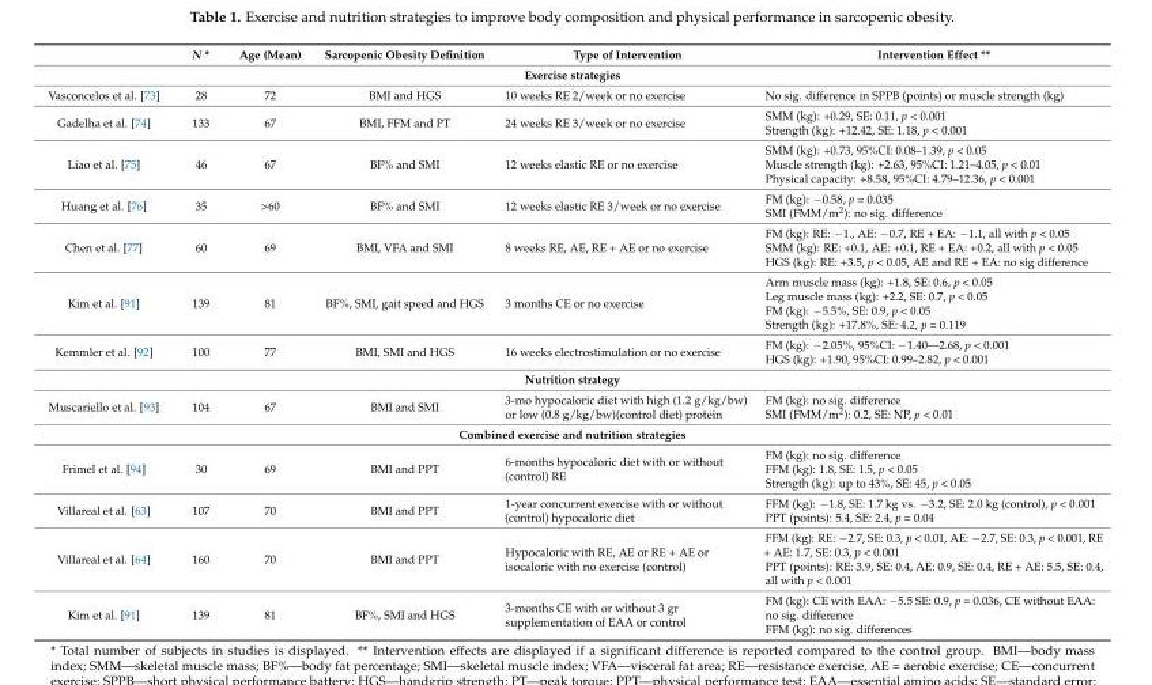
<table><thead><tr><td></td><td>N *</td><td>Age (Mean)</td><td>Sarcopenic Obesity Definition</td><td>Type of Intervention</td><td>Intervention Effect **</td></tr></thead><tbody><tr><td colspan="6">Exercise strategies</td></tr><tr><td>Vasconcelos et al. [73]</td><td>28</td><td>72</td><td>BMI and HGS</td><td>10 weeks RE 2/week or no exercise</td><td>No sig. difference in SPPB (points) or muscle strength (kg)</td></tr><tr><td>Gadelha et al. [74]</td><td>133</td><td>67</td><td>BMI, FFM and PT</td><td>24 weeks RE 3/week or no exercise</td><td>SMM (kg): +0.29, SE: 0.11, p &lt; 0.001 Strength (kg): +12.42, SE: 1.18, p &lt; 0.001</td></tr><tr><td>Liao et al. [75]</td><td>46</td><td>67</td><td>BF% and SMI</td><td>12 weeks elastic RE or no exercise</td><td>SMM (kg): +0.73, 95%CI: 0.08–1.39, p &lt; 0.05 Muscle strength (kg): +2.63, 95%CI: 1.21–4.05, p &lt; 0.01 Physical capacity: +8.58, 95%CI: 4.79–12.36, p &lt; 0.001</td></tr><tr><td>Huang et al. [76]</td><td>35</td><td>&gt;60</td><td>BF% and SMI</td><td>12 weeks elastic RE 3/week or no exercise</td><td>FM (kg): −0.58, p = 0.035 SMI (FMM/m<sup>2</sup>): no sig. difference</td></tr><tr><td>Chen et al. [77]</td><td>60</td><td>69</td><td>BMI, VFA and SMI</td><td>8 weeks RE, AE, RE + AE or no exercise</td><td>FM (kg): RE: −1., AE: −0.7, RE + EA: −1.1, all with p &lt; 0.05 SMM (kg): RE: +0.1, AE: +0.1, RE + EA: +0.2, all with p &lt; 0.05 HGS (kg): RE: +3.5, p &lt; 0.05, AE and RE + EA: no sig difference</td></tr><tr><td>Kim et al. [91]</td><td>139</td><td>81</td><td>BF%, SMI, gait speed and HGS</td><td>3 months CE or no exercise</td><td>Arm muscle mass (kg): +1.8, SE: 0.6, p &lt; 0.05 Leg muscle mass (kg): +2.2, SE: 0.7, p &lt; 0.05 FM (kg): −5.5%, SE: 0.9, p &lt; 0.05 Strength (kg): +17.8%, SE: 4.2, p = 0.119</td></tr><tr><td>Kemmler et al. [92]</td><td>100</td><td>77</td><td>BMI, SMI and HGS</td><td>16 weeks electrostimulation or no exercise</td><td>FM (kg): −2.05%, 95%CI: −1.40—2.68, p &lt; 0.001 HGS (kg): +1.90, 95%CI: 0.99–2.82, p &lt; 0.001</td></tr><tr><td colspan="6">Nutrition strategy</td></tr><tr><td>Muscariello et al. [93]</td><td>104</td><td>67</td><td>BMI and SMI</td><td>3-mo hypocaloric diet with high (1.2 g/kg/bw) or low (0.8 g/kg/bw)(control diet) protein</td><td>FM (kg): no sig. difference SMI (FMM/m<sup>2</sup>): 0.2, SE: NP, p &lt; 0.01</td></tr><tr><td colspan="6">Combined exercise and nutrition strategies</td></tr><tr><td>Frimel et al. [94]</td><td>30</td><td>69</td><td>BMI and PPT</td><td>6-months hypocaloric diet with or without (control) RE</td><td>FM (kg): no sig. difference FFM (kg): 1.8, SE: 1.5, p &lt; 0.05 Strength (kg): up to 43%, SE: 45, p &lt; 0.05</td></tr><tr><td>Villareal et al. [63]</td><td>107</td><td>70</td><td>BMI and PPT</td><td>1-year concurrent exercise with or without (control) hypocaloric diet</td><td>FFM (kg): −1.8, SE: 1.7 kg vs. −3.2, SE: 2.0 kg (control), p &lt; 0.001 PPT (points): 5.4, SE: 2.4, p = 0.04</td></tr><tr><td>Villareal et al. [64]</td><td>160</td><td>70</td><td>BMI and PPT</td><td>Hypocaloric with RE, AE or RE + AE or isocaloric with no exercise (control)</td><td>FFM (kg): RE: −2.7, SE: 0.3, p &lt; 0.01, AE: −2.7, SE: 0.3, p &lt; 0.001, RE + AE: 1.7, SE: 0.3, p &lt; 0.001 PPT (points): RE: 3.9, SE: 0.4, AE: 0.9, SE: 0.4, RE + AE: 5.5, SE: 0.4, all with p &lt; 0.001</td></tr><tr><td>Kim et al. [91]</td><td>139</td><td>81</td><td>BF%, SMI and HGS</td><td>3-months CE with or without 3 gr supplementation of EAA or control</td><td>FM (kg): CE with EAA: −5.5 SE: 0.9, p = 0.036, CE without EAA: no sig. difference FFM (kg): no sig. differences</td></tr></tbody></table>